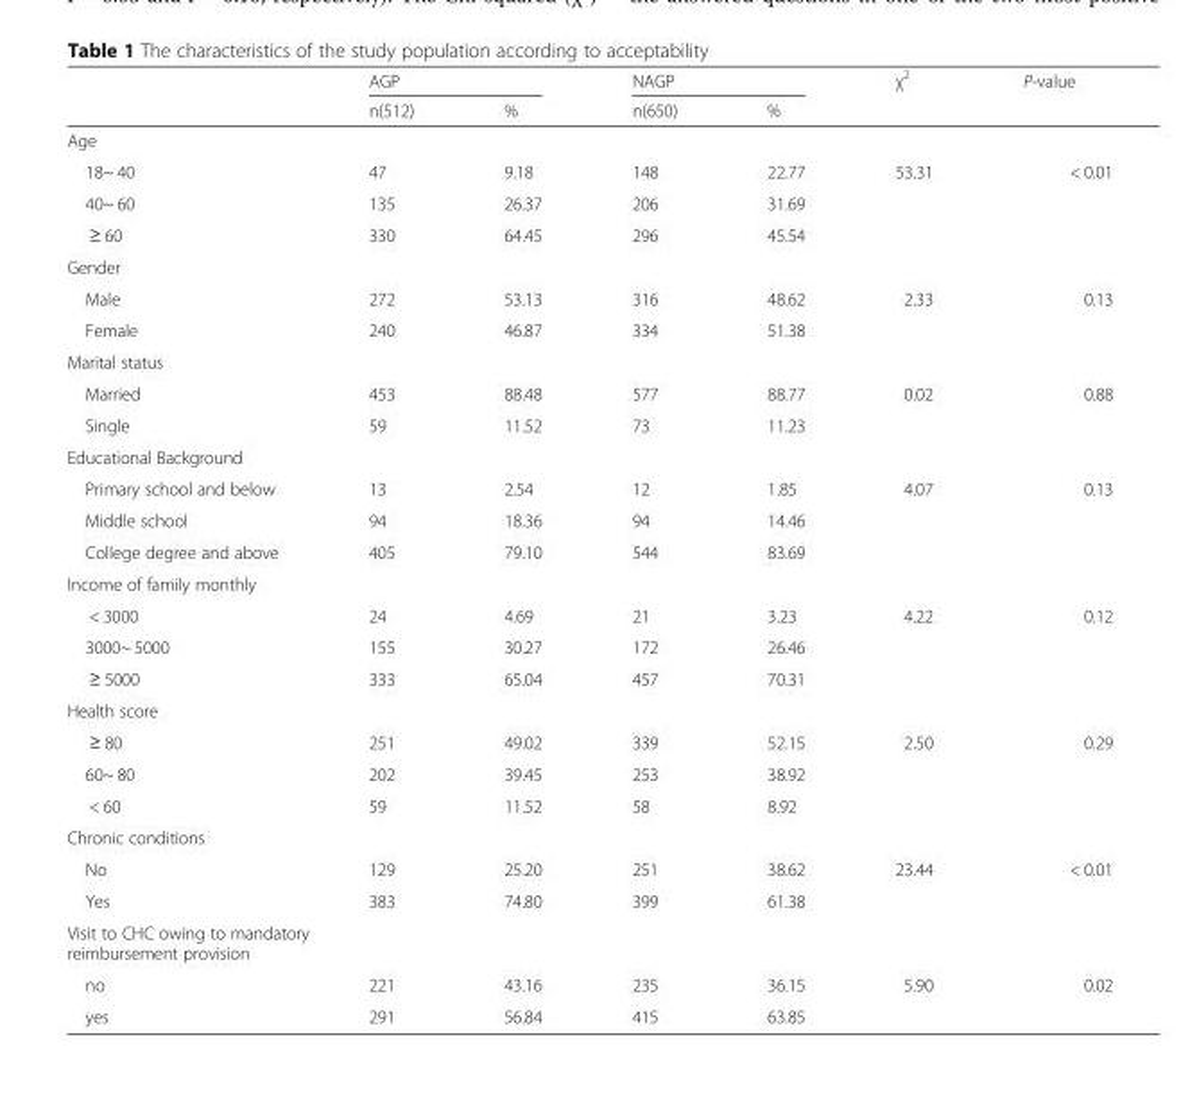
<table><thead><tr><td rowspan="2"></td><td colspan="2">AGP</td><td colspan="2">NAGP</td><td rowspan="2">χ<sup>2</sup></td><td rowspan="2">P-value</td></tr><tr><td>n(512)</td><td>%</td><td>n(650)</td><td>%</td></tr></thead><tbody><tr><td colspan="7">Age</td></tr><tr><td>18~ 40</td><td>47</td><td>9.18</td><td>148</td><td>22.77</td><td>53.31</td><td>&lt; 0.01</td></tr><tr><td>40~ 60</td><td>135</td><td>26.37</td><td>206</td><td>31.69</td><td></td><td></td></tr><tr><td>≥ 60</td><td>330</td><td>64.45</td><td>296</td><td>45.54</td><td></td><td></td></tr><tr><td colspan="7">Gender</td></tr><tr><td>Male</td><td>272</td><td>53.13</td><td>316</td><td>48.62</td><td>2.33</td><td>0.13</td></tr><tr><td>Female</td><td>240</td><td>46.87</td><td>334</td><td>51.38</td><td></td><td></td></tr><tr><td colspan="7">Marital status</td></tr><tr><td>Married</td><td>453</td><td>88.48</td><td>577</td><td>88.77</td><td>0.02</td><td>0.88</td></tr><tr><td>Single</td><td>59</td><td>11.52</td><td>73</td><td>11.23</td><td></td><td></td></tr><tr><td colspan="7">Educational Background</td></tr><tr><td>Primary school and below</td><td>13</td><td>2.54</td><td>12</td><td>1.85</td><td>4.07</td><td>0.13</td></tr><tr><td>Middle school</td><td>94</td><td>18.36</td><td>94</td><td>14.46</td><td></td><td></td></tr><tr><td>College degree and above</td><td>405</td><td>79.10</td><td>544</td><td>83.69</td><td></td><td></td></tr><tr><td colspan="7">Income of family monthly</td></tr><tr><td>&lt; 3000</td><td>24</td><td>4.69</td><td>21</td><td>3.23</td><td>4.22</td><td>0.12</td></tr><tr><td>3000~ 5000</td><td>155</td><td>30.27</td><td>172</td><td>26.46</td><td></td><td></td></tr><tr><td>≥ 5000</td><td>333</td><td>65.04</td><td>457</td><td>70.31</td><td></td><td></td></tr><tr><td colspan="7">Health score</td></tr><tr><td>≥ 80</td><td>251</td><td>49.02</td><td>339</td><td>52.15</td><td>2.50</td><td>0.29</td></tr><tr><td>60~ 80</td><td>202</td><td>39.45</td><td>253</td><td>38.92</td><td></td><td></td></tr><tr><td>&lt; 60</td><td>59</td><td>11.52</td><td>58</td><td>8.92</td><td></td><td></td></tr><tr><td colspan="7">Chronic conditions</td></tr><tr><td>No</td><td>129</td><td>25.20</td><td>251</td><td>38.62</td><td>23.44</td><td>&lt; 0.01</td></tr><tr><td>Yes</td><td>383</td><td>74.80</td><td>399</td><td>61.38</td><td></td><td></td></tr><tr><td colspan="7">Visit to CHC owing to mandatory reimbursement provision</td></tr><tr><td>no</td><td>221</td><td>43.16</td><td>235</td><td>36.15</td><td>5.90</td><td>0.02</td></tr><tr><td>yes</td><td>291</td><td>56.84</td><td>415</td><td>63.85</td><td></td><td></td></tr></tbody></table>